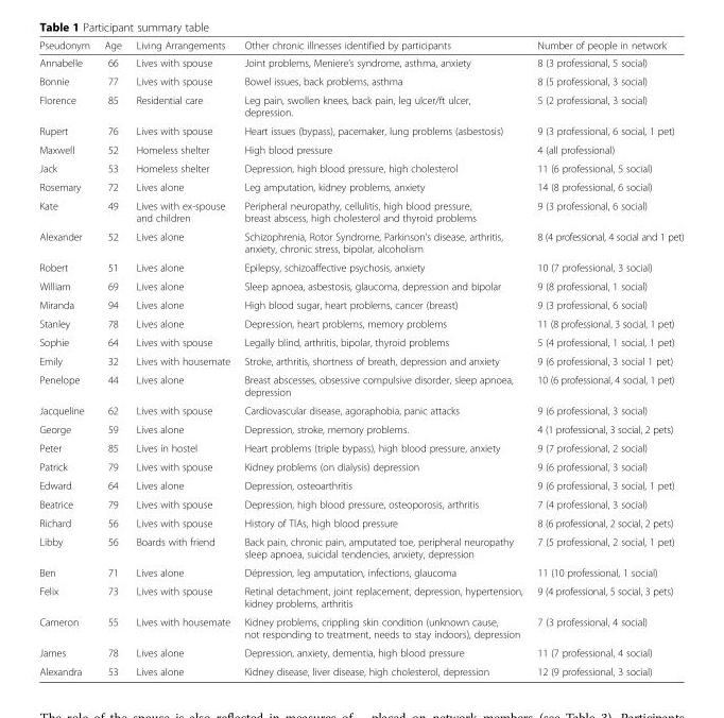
<table><thead><tr><td>Pseudonym</td><td>Age</td><td>Living Arrangements</td><td>Other chronic illnesses identified by participants</td><td>Number of people in network</td></tr></thead><tbody><tr><td>Annabelle</td><td>66</td><td>Lives with spouse</td><td>Joint problems, Meniere’s syndrome, asthma, anxiety</td><td>8 (3 professional, 5 social)</td></tr><tr><td>Bonnie</td><td>77</td><td>Lives with spouse</td><td>Bowel issues, back problems, asthma</td><td>8 (5 professional, 3 social)</td></tr><tr><td>Florence</td><td>85</td><td>Residential care</td><td>Leg pain, swollen knees, back pain, leg ulcer/ft ulcer, depression.</td><td>5 (2 professional, 3 social)</td></tr><tr><td>Rupert</td><td>76</td><td>Lives with spouse</td><td>Heart issues (bypass), pacemaker, lung problems (asbestosis)</td><td>9 (3 professional, 6 social, 1 pet)</td></tr><tr><td>Maxwell</td><td>52</td><td>Homeless shelter</td><td>High blood pressure</td><td>4 (all professional)</td></tr><tr><td>Jack</td><td>53</td><td>Homeless shelter</td><td>Depression, high blood pressure, high cholesterol</td><td>11 (6 professional, 5 social)</td></tr><tr><td>Rosemary</td><td>72</td><td>Lives alone</td><td>Leg amputation, kidney problems, anxiety</td><td>14 (8 professional, 6 social)</td></tr><tr><td>Kate</td><td>49</td><td>Lives with ex-spouse and children</td><td>Peripheral neuropathy, cellulitis, high blood pressure, breast abscess, high cholesterol and thyroid problems</td><td>9 (3 professional, 6 social)</td></tr><tr><td>Alexander</td><td>52</td><td>Lives alone</td><td>Schizophrenia, Rotor Syndrome, Parkinson’s disease, arthritis, anxiety, chronic stress, bipolar, alcoholism</td><td>8 (4 professional, 4 social and 1 pet)</td></tr><tr><td>Robert</td><td>51</td><td>Lives alone</td><td>Epilepsy, schizoaffective psychosis, anxiety</td><td>10 (7 professional, 3 social)</td></tr><tr><td>William</td><td>69</td><td>Lives alone</td><td>Sleep apnoea, asbestosis, glaucoma, depression and bipolar</td><td>9 (8 professional, 1 social)</td></tr><tr><td>Miranda</td><td>94</td><td>Lives alone</td><td>High blood sugar, heart problems, cancer (breast)</td><td>9 (3 professional, 6 social)</td></tr><tr><td>Stanley</td><td>78</td><td>Lives alone</td><td>Depression, heart problems, memory problems</td><td>11 (8 professional, 3 social, 1 pet)</td></tr><tr><td>Sophie</td><td>64</td><td>Lives with spouse</td><td>Legally blind, arthritis, bipolar, thyroid problems</td><td>5 (4 professional, 1 social, 1 pet)</td></tr><tr><td>Emily</td><td>32</td><td>Lives with housemate</td><td>Stroke, arthritis, shortness of breath, depression and anxiety</td><td>9 (6 professional, 3 social 1 pet)</td></tr><tr><td>Penelope</td><td>44</td><td>Lives alone</td><td>Breast abscesses, obsessive compulsive disorder, sleep apnoea, depression</td><td>10 (6 professional, 4 social, 1 pet)</td></tr><tr><td>Jacqueline</td><td>62</td><td>Lives with spouse</td><td>Cardiovascular disease, agoraphobia, panic attacks</td><td>9 (6 professional, 3 social)</td></tr><tr><td>George</td><td>59</td><td>Lives alone</td><td>Depression, stroke, memory problems.</td><td>4 (1 professional, 3 social, 2 pets)</td></tr><tr><td>Peter</td><td>85</td><td>Lives in hostel</td><td>Heart problems (triple bypass), high blood pressure, anxiety</td><td>9 (7 professional, 2 social)</td></tr><tr><td>Patrick</td><td>79</td><td>Lives with spouse</td><td>Kidney problems (on dialysis) depression</td><td>9 (6 professional, 3 social)</td></tr><tr><td>Edward</td><td>64</td><td>Lives alone</td><td>Depression, osteoarthritis</td><td>9 (6 professional, 3 social, 1 pet)</td></tr><tr><td>Beatrice</td><td>79</td><td>Lives with spouse</td><td>Depression, high blood pressure, osteoporosis, arthritis</td><td>7 (4 professional, 3 social)</td></tr><tr><td>Richard</td><td>56</td><td>Lives with spouse</td><td>History of TIAs, high blood pressure</td><td>8 (6 professional, 2 social, 2 pets)</td></tr><tr><td>Libby</td><td>56</td><td>Boards with friend</td><td>Back pain, chronic pain, amputated toe, peripheral neuropathy sleep apnoea, suicidal tendencies, anxiety, depression</td><td>7 (5 professional, 2 social, 1 pet)</td></tr><tr><td>Ben</td><td>71</td><td>Lives alone</td><td>Dépression, leg amputation, infections, glaucoma</td><td>11 (10 professional, 1 social)</td></tr><tr><td>Felix</td><td>73</td><td>Lives with spouse</td><td>Retinal detachment, joint replacement, depression, hypertension, kidney problems, arthritis</td><td>9 (4 professional, 5 social, 3 pets)</td></tr><tr><td>Cameron</td><td>55</td><td>Lives with housemate</td><td>Kidney problems, crippling skin condition (unknown cause, not responding to treatment, needs to stay indoors), depression</td><td>7 (3 professional, 4 social)</td></tr><tr><td>James</td><td>78</td><td>Lives alone</td><td>Depression, anxiety, dementia, high blood pressure</td><td>11 (7 professional, 4 social)</td></tr><tr><td>Alexandra</td><td>53</td><td>Lives alone</td><td>Kidney disease, liver disease, high cholesterol, depression</td><td>12 (9 professional, 3 social)</td></tr></tbody></table>